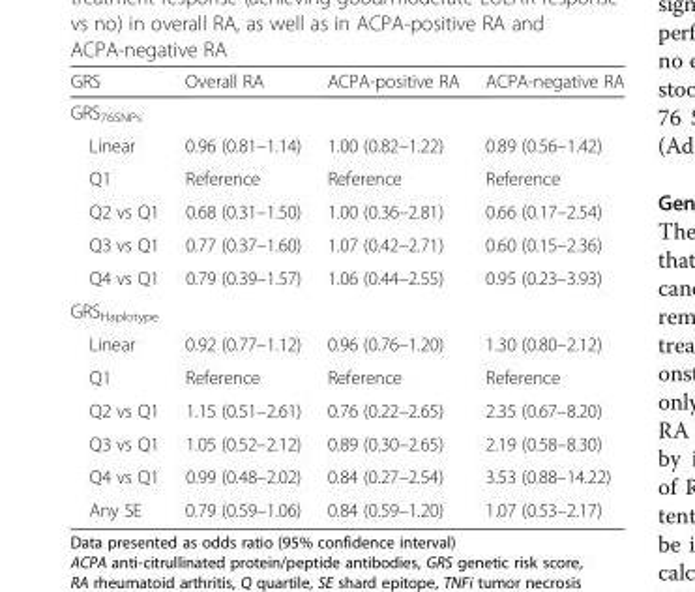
<table><thead><tr><td>GRS</td><td>Overall RA</td><td>ACPA-positive RA</td><td>ACPA-negative RA</td></tr></thead><tbody><tr><td colspan="4">GRS<sub>76SNPs</sub></td></tr><tr><td>Linear</td><td>0.96 (0.81–1.14)</td><td>1.00 (0.82–1.22)</td><td>0.89 (0.56–1.42)</td></tr><tr><td>Q1</td><td>Reference</td><td>Reference</td><td>Reference</td></tr><tr><td>Q2 vs Q1</td><td>0.68 (0.31–1.50)</td><td>1.00 (0.36–2.81)</td><td>0.66 (0.17–2.54)</td></tr><tr><td>Q3 vs Q1</td><td>0.77 (0.37–1.60)</td><td>1.07 (0.42–2.71)</td><td>0.60 (0.15–2.36)</td></tr><tr><td>Q4 vs Q1</td><td>0.79 (0.39–1.57)</td><td>1.06 (0.44–2.55)</td><td>0.95 (0.23–3.93)</td></tr><tr><td colspan="4">GRS<sub>Haplotype</sub></td></tr><tr><td>Linear</td><td>0.92 (0.77–1.12)</td><td>0.96 (0.76–1.20)</td><td>1.30 (0.80–2.12)</td></tr><tr><td>Q1</td><td>Reference</td><td>Reference</td><td>Reference</td></tr><tr><td>Q2 vs Q1</td><td>1.15 (0.51–2.61)</td><td>0.76 (0.22–2.65)</td><td>2.35 (0.67–8.20)</td></tr><tr><td>Q3 vs Q1</td><td>1.05 (0.52–2.12)</td><td>0.89 (0.30–2.65)</td><td>2.19 (0.58–8.30)</td></tr><tr><td>Q4 vs Q1</td><td>0.99 (0.48–2.02)</td><td>0.84 (0.27–2.54)</td><td>3.53 (0.88–14.22)</td></tr><tr><td>Any SE</td><td>0.79 (0.59–1.06)</td><td>0.84 (0.59–1.20)</td><td>1.07 (0.53–2.17)</td></tr></tbody></table>